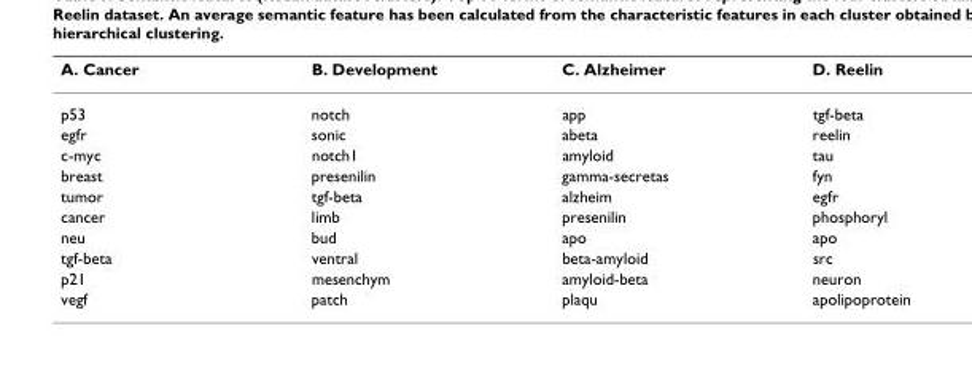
<table><thead><tr><td>A. Cancer</td><td>B. Development</td><td>C. Alzheimer</td><td>D. Reelin</td></tr></thead><tbody><tr><td>p53</td><td>notch</td><td>app</td><td>tgf-beta</td></tr><tr><td>egfr</td><td>sonic</td><td>abeta</td><td>reelin</td></tr><tr><td>c-myc</td><td>notch1</td><td>amyloid</td><td>tau</td></tr><tr><td>breast</td><td>presenilin</td><td>gamma-secretas</td><td>fyn</td></tr><tr><td>tumor</td><td>tgf-beta</td><td>alzheim</td><td>egfr</td></tr><tr><td>cancer</td><td>limb</td><td>presenilin</td><td>phosphoryl</td></tr><tr><td>neu</td><td>bud</td><td>apo</td><td>apo</td></tr><tr><td>tgf-beta</td><td>ventral</td><td>beta-amyloid</td><td>src</td></tr><tr><td>p21</td><td>mesenchym</td><td>amyloid-beta</td><td>neuron</td></tr><tr><td>vegf</td><td>patch</td><td>plaqu</td><td>apolipoprotein</td></tr></tbody></table>